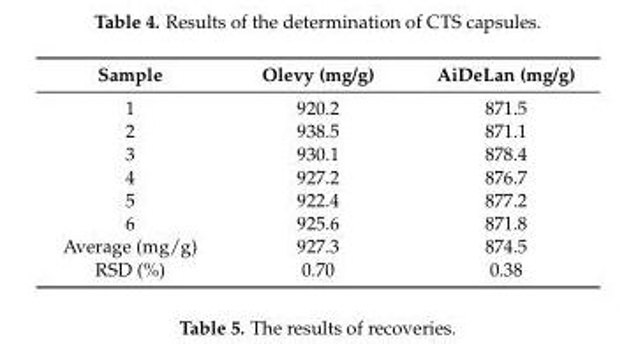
<table><thead><tr><td>Sample</td><td>Olevy (mg/g)</td><td>AiDeLan (mg/g)</td></tr></thead><tbody><tr><td>1</td><td>920.2</td><td>871.5</td></tr><tr><td>2</td><td>938.5</td><td>871.1</td></tr><tr><td>3</td><td>930.1</td><td>878.4</td></tr><tr><td>4</td><td>927.2</td><td>876.7</td></tr><tr><td>5</td><td>922.4</td><td>877.2</td></tr><tr><td>6</td><td>925.6</td><td>871.8</td></tr><tr><td>Average (mg/g)</td><td>927.3</td><td>874.5</td></tr><tr><td>RSD (%)</td><td>0.70</td><td>0.38</td></tr></tbody></table>